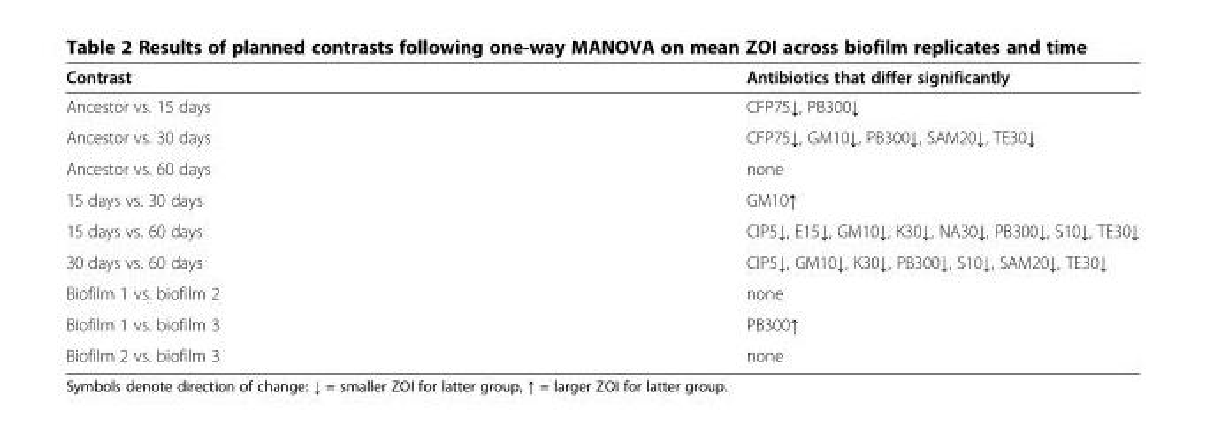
<table><thead><tr><td>Contrast</td><td>Antibiotics that differ significantly</td></tr></thead><tbody><tr><td>Ancestor vs. 15 days</td><td>CFP75↓, PB300↓</td></tr><tr><td>Ancestor vs. 30 days</td><td>CFP75↓, GM10↓, PB300↓, SAM20↓, TE30↓</td></tr><tr><td>Ancestor vs. 60 days</td><td>none</td></tr><tr><td>15 days vs. 30 days</td><td>GM10↑</td></tr><tr><td>15 days vs. 60 days</td><td>CIP5↓, E15↓, GM10↓, K30↓, NA30↓, PB300↓, S10↓, TE30↓</td></tr><tr><td>30 days vs. 60 days</td><td>CIP5↓, GM10↓, K30↓, PB300↓, S10↓, SAM20↓, TE30↓</td></tr><tr><td>Biofilm 1 vs. biofilm 2</td><td>none</td></tr><tr><td>Biofilm 1 vs. biofilm 3</td><td>PB300↑</td></tr><tr><td>Biofilm 2 vs. biofilm 3</td><td>none</td></tr></tbody></table>